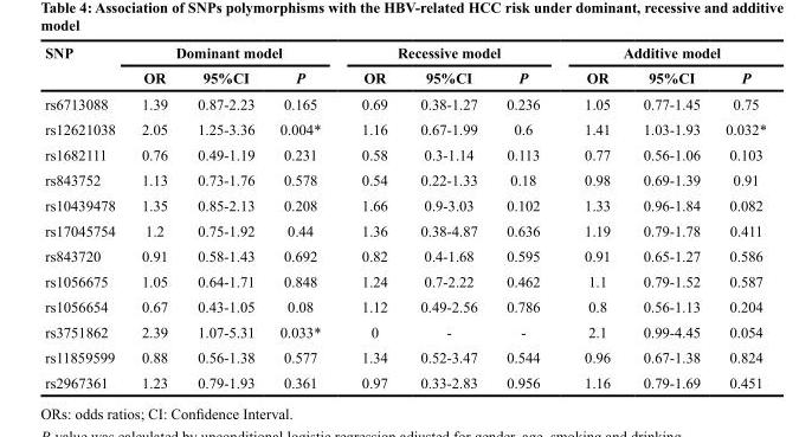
<table><thead><tr><td rowspan="2">SNP</td><td colspan="3">Dominant model</td><td colspan="3">Recessive model</td><td colspan="3">Additive model</td></tr><tr><td>OR</td><td>95%CI</td><td>P</td><td>OR</td><td>95%CI</td><td>P</td><td>OR</td><td>95%CI</td><td>P</td></tr></thead><tbody><tr><td>rs6713088</td><td>1.39</td><td>0.87-2.23</td><td>0.165</td><td>0.69</td><td>0.38-1.27</td><td>0.236</td><td>1.05</td><td>0.77-1.45</td><td>0.75</td></tr><tr><td>rs12621038</td><td>2.05</td><td>1.25-3.36</td><td>0.004*</td><td>1.16</td><td>0.67-1.99</td><td>0.6</td><td>1.41</td><td>1.03-1.93</td><td>0.032*</td></tr><tr><td>rs1682111</td><td>0.76</td><td>0.49-1.19</td><td>0.231</td><td>0.58</td><td>0.3-1.14</td><td>0.113</td><td>0.77</td><td>0.56-1.06</td><td>0.103</td></tr><tr><td>rs843752</td><td>1.13</td><td>0.73-1.76</td><td>0.578</td><td>0.54</td><td>0.22-1.33</td><td>0.18</td><td>0.98</td><td>0.69-1.39</td><td>0.91</td></tr><tr><td>rs10439478</td><td>1.35</td><td>0.85-2.13</td><td>0.208</td><td>1.66</td><td>0.9-3.03</td><td>0.102</td><td>1.33</td><td>0.96-1.84</td><td>0.082</td></tr><tr><td>rs17045754</td><td>1.2</td><td>0.75-1.92</td><td>0.44</td><td>1.36</td><td>0.38-4.87</td><td>0.636</td><td>1.19</td><td>0.79-1.78</td><td>0.411</td></tr><tr><td>rs843720</td><td>0.91</td><td>0.58-1.43</td><td>0.692</td><td>0.82</td><td>0.4-1.68</td><td>0.595</td><td>0.91</td><td>0.65-1.27</td><td>0.586</td></tr><tr><td>rs1056675</td><td>1.05</td><td>0.64-1.71</td><td>0.848</td><td>1.24</td><td>0.7-2.22</td><td>0.462</td><td>1.1</td><td>0.79-1.52</td><td>0.587</td></tr><tr><td>rs1056654</td><td>0.67</td><td>0.43-1.05</td><td>0.08</td><td>1.12</td><td>0.49-2.56</td><td>0.786</td><td>0.8</td><td>0.56-1.13</td><td>0.204</td></tr><tr><td>rs3751862</td><td>2.39</td><td>1.07-5.31</td><td>0.033*</td><td>0</td><td>-</td><td>-</td><td>2.1</td><td>0.99-4.45</td><td>0.054</td></tr><tr><td>rs11859599</td><td>0.88</td><td>0.56-1.38</td><td>0.577</td><td>1.34</td><td>0.52-3.47</td><td>0.544</td><td>0.96</td><td>0.67-1.38</td><td>0.824</td></tr><tr><td>rs2967361</td><td>1.23</td><td>0.79-1.93</td><td>0.361</td><td>0.97</td><td>0.33-2.83</td><td>0.956</td><td>1.16</td><td>0.79-1.69</td><td>0.451</td></tr></tbody></table>